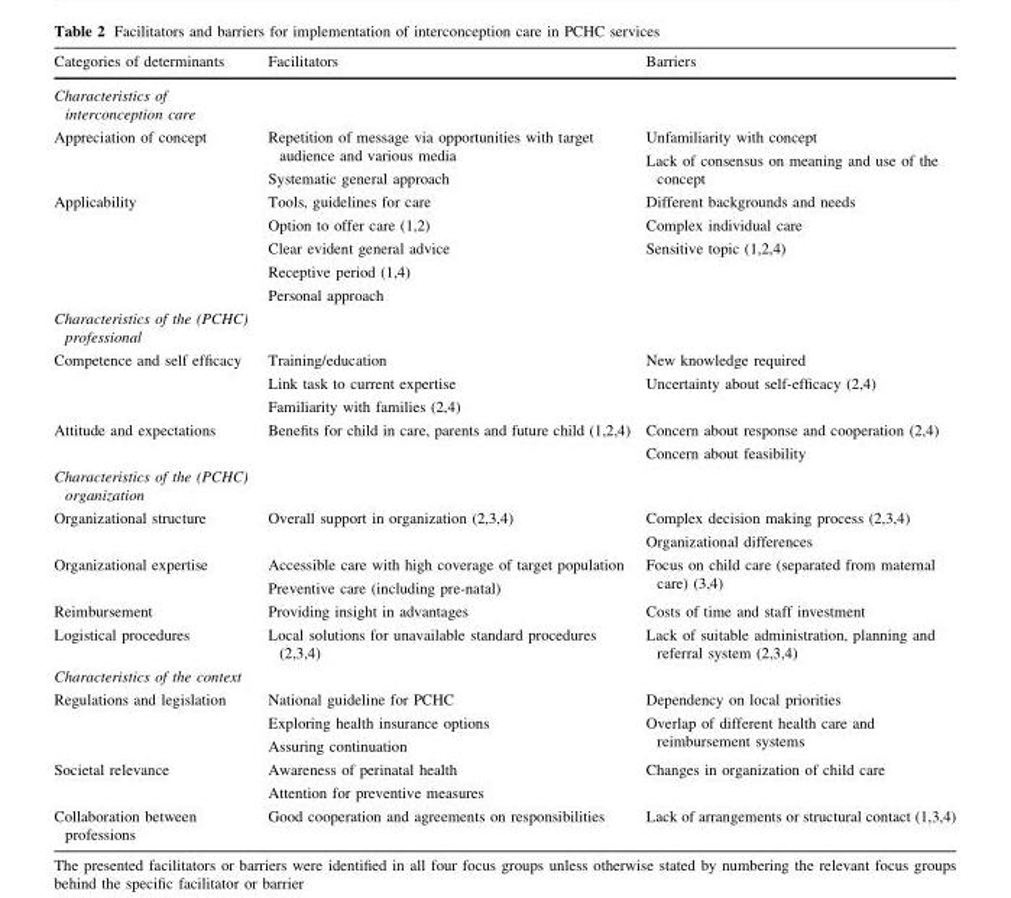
<table><thead><tr><td>Categories of determinants</td><td>Facilitators</td><td>Barriers</td></tr></thead><tbody><tr><td colspan="3">Characteristics of interconception care</td></tr><tr><td>Appreciation of concept</td><td>Repetition of message via opportunities with target audience and various media Systematic general approach</td><td>Unfamiliarity with concept Lack of consensus on meaning and use of the concept</td></tr><tr><td>Applicability</td><td>Tools, guidelines for care Option to offer care (1,2) Clear evident general advice Receptive period (1,4) Personal approach</td><td>Different backgrounds and needs Complex individual care Sensitive topic (1,2,4)</td></tr><tr><td colspan="3">Characteristics of the (PCHC) professional</td></tr><tr><td>Competence and self efficacy</td><td>Training/education Link task to current expertise Familiarity with families (2,4)</td><td>New knowledge required Uncertainty about self-efficacy (2,4)</td></tr><tr><td>Attitude and expectations</td><td>Benefits for child in care, parents and future child (1,2,4)</td><td>Concern about response and cooperation (2,4) Concern about feasibility</td></tr><tr><td colspan="3">Characteristics of the (PCHC) organization</td></tr><tr><td>Organizational structure</td><td>Overall support in organization (2,3,4)</td><td>Complex decision making process (2,3,4) Organizational differences</td></tr><tr><td>Organizational expertise</td><td>Accessible care with high coverage of target population Preventive care (including pre-natal)</td><td>Focus on child care (separated from maternal care) (3,4)</td></tr><tr><td>Reimbursement</td><td>Providing insight in advantages</td><td>Costs of time and staff investment</td></tr><tr><td>Logistical procedures</td><td>Local solutions for unavailable standard procedures (2,3,4)</td><td>Lack of suitable administration, planning and referral system (2,3,4)</td></tr><tr><td colspan="3">Characteristics of the context</td></tr><tr><td>Regulations and legislation</td><td>National guideline for PCHC Exploring health insurance options Assuring continuation</td><td>Dependency on local priorities Overlap of different health care and reimbursement systems</td></tr><tr><td>Societal relevance</td><td>Awareness of perinatal health Attention for preventive measures</td><td>Changes in organization of child care</td></tr><tr><td>Collaboration between professions</td><td>Good cooperation and agreements on responsibilities</td><td>Lack of arrangements or structural contact (1,3,4)</td></tr></tbody></table>